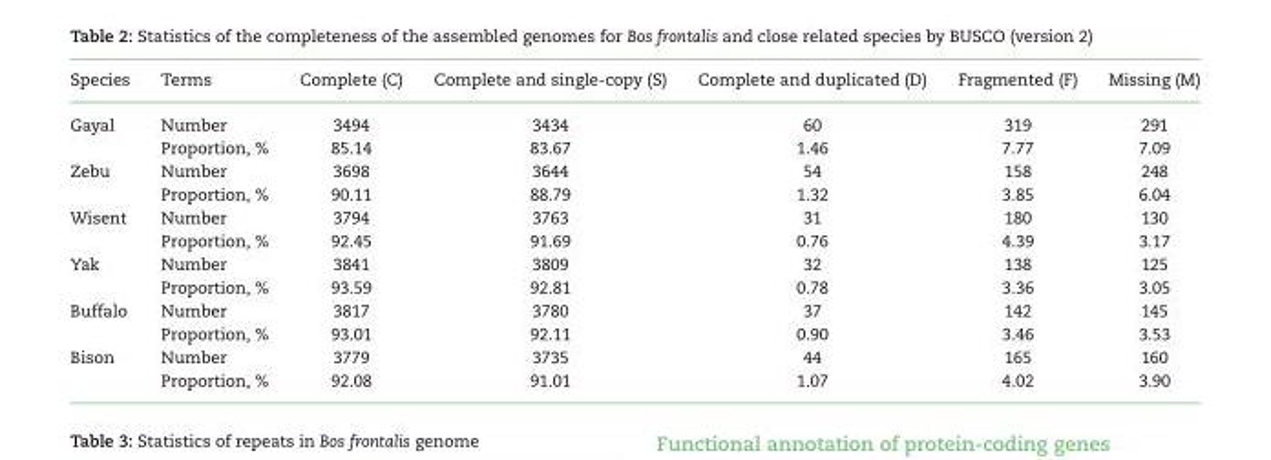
<table><thead><tr><td>Species</td><td>Terms</td><td>Complete (C)</td><td>Complete and single-copy (S)</td><td>Complete and duplicated (D)</td><td>Fragmented (F)</td><td>Missing (M)</td></tr></thead><tbody><tr><td rowspan="2">Gayal</td><td>Number</td><td>3494</td><td>3434</td><td>60</td><td>319</td><td>291</td></tr><tr><td>Proportion, %</td><td>85.14</td><td>83.67</td><td>1.46</td><td>7.77</td><td>7.09</td></tr><tr><td rowspan="2">Zebu</td><td>Number</td><td>3698</td><td>3644</td><td>54</td><td>158</td><td>248</td></tr><tr><td>Proportion, %</td><td>90.11</td><td>88.79</td><td>1.32</td><td>3.85</td><td>6.04</td></tr><tr><td rowspan="2">Wisent</td><td>Number</td><td>3794</td><td>3763</td><td>31</td><td>180</td><td>130</td></tr><tr><td>Proportion, %</td><td>92.45</td><td>91.69</td><td>0.76</td><td>4.39</td><td>3.17</td></tr><tr><td rowspan="2">Yak</td><td>Number</td><td>3841</td><td>3809</td><td>32</td><td>138</td><td>125</td></tr><tr><td>Proportion, %</td><td>93.59</td><td>92.81</td><td>0.78</td><td>3.36</td><td>3.05</td></tr><tr><td rowspan="2">Buffalo</td><td>Number</td><td>3817</td><td>3780</td><td>37</td><td>142</td><td>145</td></tr><tr><td>Proportion, %</td><td>93.01</td><td>92.11</td><td>0.90</td><td>3.46</td><td>3.53</td></tr><tr><td rowspan="2">Bison</td><td>Number</td><td>3779</td><td>3735</td><td>44</td><td>165</td><td>160</td></tr><tr><td>Proportion, %</td><td>92.08</td><td>91.01</td><td>1.07</td><td>4.02</td><td>3.90</td></tr></tbody></table>